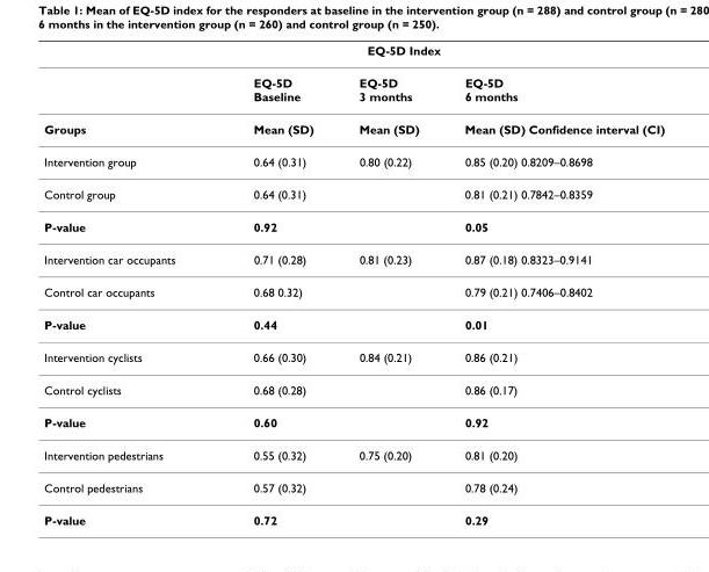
<table><thead><tr><td colspan="4">EQ-5D Index</td></tr><tr><td></td><td>EQ-5D Baseline</td><td>EQ-5D 3 months</td><td>EQ-5D 6 months</td></tr></thead><tbody><tr><td>Groups</td><td>Mean (SD)</td><td>Mean (SD)</td><td>Mean (SD) Confidence interval (CI)</td></tr><tr><td>Intervention group</td><td>0.64 (0.31)</td><td>0.80 (0.22)</td><td>0.85 (0.20) 0.8209–0.8698</td></tr><tr><td>Control group</td><td>0.64 (0.31)</td><td></td><td>0.81 (0.21) 0.7842–0.8359</td></tr><tr><td>P-value</td><td>0.92</td><td></td><td>0.05</td></tr><tr><td>Intervention car occupants</td><td>0.71 (0.28)</td><td>0.81 (0.23)</td><td>0.87 (0.18) 0.8323–0.9141</td></tr><tr><td>Control car occupants</td><td>0.68 0.32)</td><td></td><td>0.79 (0.21) 0.7406–0.8402</td></tr><tr><td>P-value</td><td>0.44</td><td></td><td>0.01</td></tr><tr><td>Intervention cyclists</td><td>0.66 (0.30)</td><td>0.84 (0.21)</td><td>0.86 (0.21)</td></tr><tr><td>Control cyclists</td><td>0.68 (0.28)</td><td></td><td>0.86 (0.17)</td></tr><tr><td>P-value</td><td>0.60</td><td></td><td>0.92</td></tr><tr><td>Intervention pedestrians</td><td>0.55 (0.32)</td><td>0.75 (0.20)</td><td>0.81 (0.20)</td></tr><tr><td>Control pedestrians</td><td>0.57 (0.32)</td><td></td><td>0.78 (0.24)</td></tr><tr><td>P-value</td><td>0.72</td><td></td><td>0.29</td></tr></tbody></table>